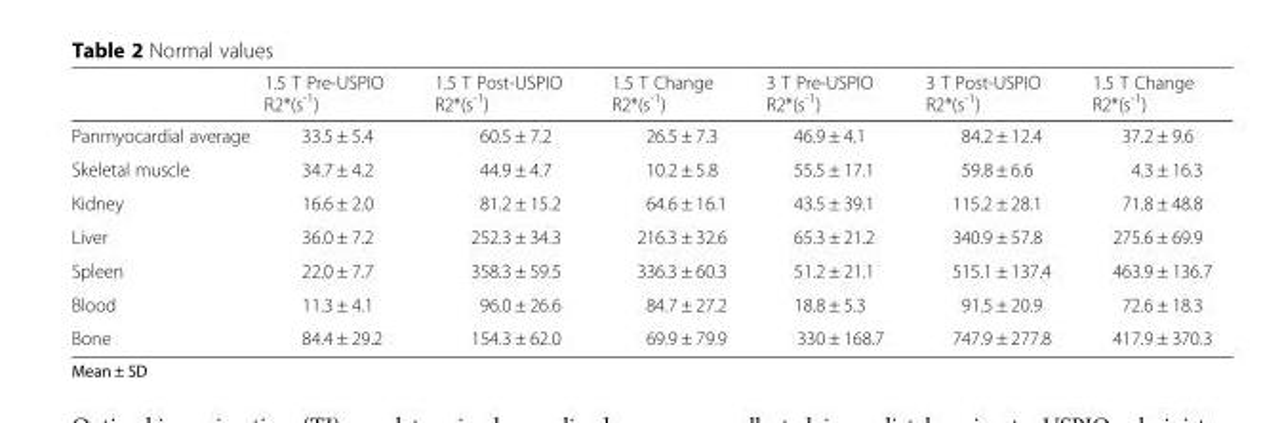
<table><thead><tr><td></td><td>1.5 T Pre-USPIO R2*(s<sup>-1</sup>)</td><td>1.5 T Post-USPIO R2*(s<sup>-1</sup>)</td><td>1.5 T Change R2*(s<sup>-1</sup>)</td><td>3 T Pre-USPIO R2*(s<sup>-1</sup>)</td><td>3 T Post-USPIO R2*(s<sup>-1</sup>)</td><td>1.5 T Change R2*(s<sup>-1</sup>)</td></tr></thead><tbody><tr><td>Panmyocardial average</td><td>33.5 ± 5.4</td><td>60.5 ± 7.2</td><td>26.5 ± 7.3</td><td>46.9 ± 4.1</td><td>84.2 ± 12.4</td><td>37.2 ± 9.6</td></tr><tr><td>Skeletal muscle</td><td>34.7 ± 4.2</td><td>44.9 ± 4.7</td><td>10.2 ± 5.8</td><td>55.5 ± 17.1</td><td>59.8 ± 6.6</td><td>4.3 ± 16.3</td></tr><tr><td>Kidney</td><td>16.6 ± 2.0</td><td>81.2 ± 15.2</td><td>64.6 ± 16.1</td><td>43.5 ± 39.1</td><td>115.2 ± 28.1</td><td>71.8 ± 48.8</td></tr><tr><td>Liver</td><td>36.0 ± 7.2</td><td>252.3 ± 34.3</td><td>216.3 ± 32.6</td><td>65.3 ± 21.2</td><td>340.9 ± 57.8</td><td>275.6 ± 69.9</td></tr><tr><td>Spleen</td><td>22.0 ± 7.7</td><td>358.3 ± 59.5</td><td>336.3 ± 60.3</td><td>51.2 ± 21.1</td><td>515.1 ± 137.4</td><td>463.9 ± 136.7</td></tr><tr><td>Blood</td><td>11.3 ± 4.1</td><td>96.0 ± 26.6</td><td>84.7 ± 27.2</td><td>18.8 ± 5.3</td><td>91.5 ± 20.9</td><td>72.6 ± 18.3</td></tr><tr><td>Bone</td><td>84.4 ± 29.2</td><td>154.3 ± 62.0</td><td>69.9 ± 79.9</td><td>330 ± 168.7</td><td>747.9 ± 277.8</td><td>417.9 ± 370.3</td></tr></tbody></table>